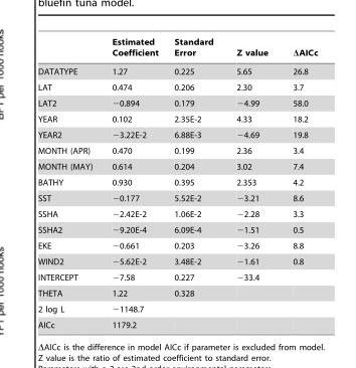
<table><thead><tr><td></td><td>Estimated Coefficient</td><td>Standard Error</td><td>Z value</td><td>ΔAICc</td></tr></thead><tbody><tr><td>DATATYPE</td><td>1.27</td><td>0.225</td><td>5.65</td><td>26.8</td></tr><tr><td>LAT</td><td>0.474</td><td>0.206</td><td>2.30</td><td>3.7</td></tr><tr><td>LAT2</td><td>−0.894</td><td>0.179</td><td>−4.99</td><td>58.0</td></tr><tr><td>YEAR</td><td>0.102</td><td>2.35E-2</td><td>4.33</td><td>18.2</td></tr><tr><td>YEAR2</td><td>−3.22E-2</td><td>6.88E-3</td><td>−4.69</td><td>19.8</td></tr><tr><td>MONTH (APR)</td><td>0.470</td><td>0.199</td><td>2.36</td><td>3.4</td></tr><tr><td>MONTH (MAY)</td><td>0.614</td><td>0.204</td><td>3.02</td><td>7.4</td></tr><tr><td>BATHY</td><td>0.930</td><td>0.395</td><td>2.353</td><td>4.2</td></tr><tr><td>SST</td><td>−0.177</td><td>5.52E-2</td><td>−3.21</td><td>8.6</td></tr><tr><td>SSHA</td><td>−2.42E-2</td><td>1.06E-2</td><td>−2.28</td><td>3.3</td></tr><tr><td>SSHA2</td><td>−9.20E-4</td><td>6.09E-4</td><td>−1.51</td><td>0.5</td></tr><tr><td>EKE</td><td>−0.661</td><td>0.203</td><td>−3.26</td><td>8.8</td></tr><tr><td>WIND2</td><td>−5.62E-2</td><td>3.48E-2</td><td>−1.61</td><td>0.8</td></tr><tr><td>INTERCEPT</td><td>−7.58</td><td>0.227</td><td>−33.4</td><td></td></tr><tr><td>THETA</td><td>1.22</td><td>0.328</td><td></td><td></td></tr><tr><td>2 log L</td><td>−1148.7</td><td></td><td></td><td></td></tr><tr><td>AICc</td><td>1179.2</td><td></td><td></td><td></td></tr></tbody></table>